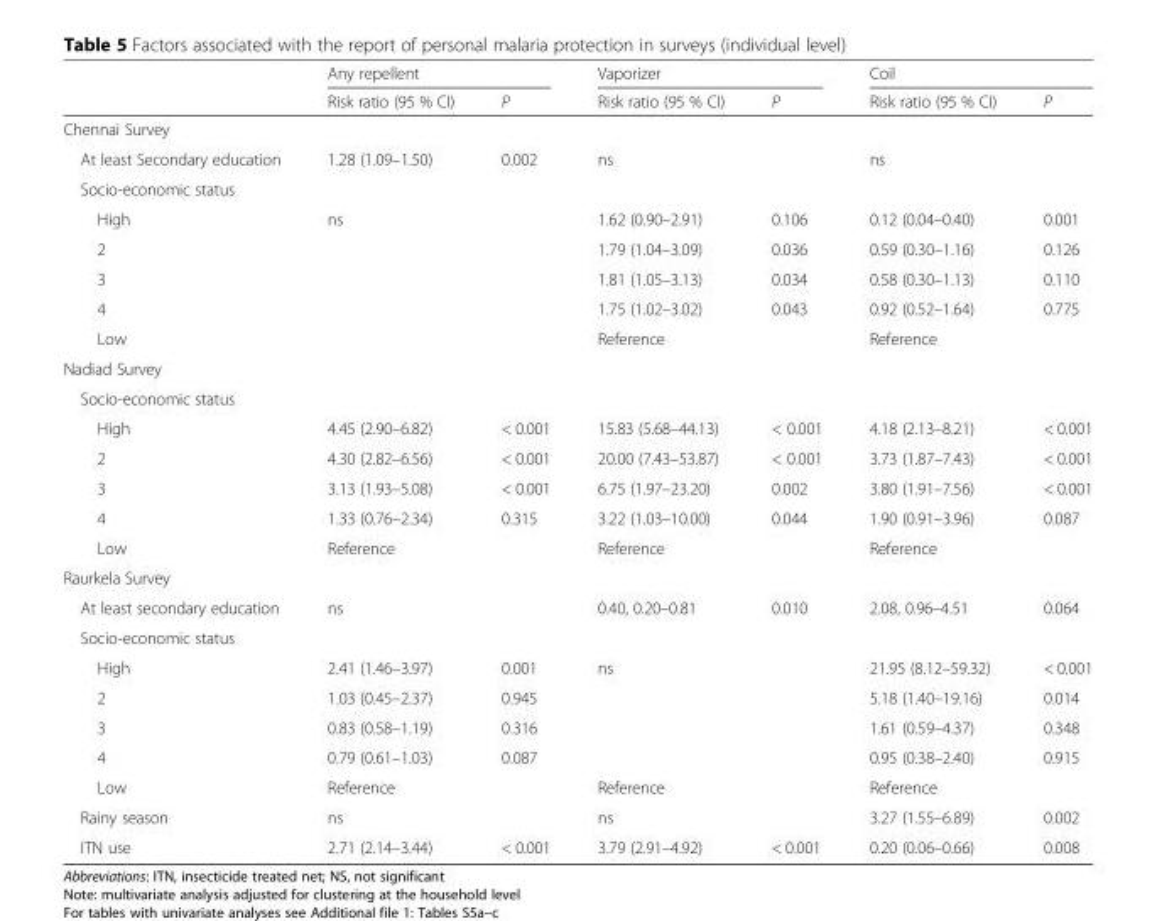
<table><thead><tr><td rowspan="2"></td><td colspan="2">Any repellent</td><td colspan="2">Vaporizer</td><td colspan="2">Coil</td></tr><tr><td>Risk ratio (95 % CI)</td><td>P</td><td>Risk ratio (95 % CI)</td><td>P</td><td>Risk ratio (95 % CI)</td><td>P</td></tr></thead><tbody><tr><td colspan="7">Chennai Survey</td></tr><tr><td>At least Secondary education</td><td>1.28 (1.09–1.50)</td><td>0.002</td><td>ns</td><td></td><td>ns</td><td></td></tr><tr><td colspan="7">Socio-economic status</td></tr><tr><td>High</td><td>ns</td><td></td><td>1.62 (0.90–2.91)</td><td>0.106</td><td>0.12 (0.04–0.40)</td><td>0.001</td></tr><tr><td>2</td><td></td><td></td><td>1.79 (1.04–3.09)</td><td>0.036</td><td>0.59 (0.30–1.16)</td><td>0.126</td></tr><tr><td>3</td><td></td><td></td><td>1.81 (1.05–3.13)</td><td>0.034</td><td>0.58 (0.30–1.13)</td><td>0.110</td></tr><tr><td>4</td><td></td><td></td><td>1.75 (1.02–3.02)</td><td>0.043</td><td>0.92 (0.52–1.64)</td><td>0.775</td></tr><tr><td>Low</td><td></td><td></td><td>Reference</td><td></td><td>Reference</td><td></td></tr><tr><td colspan="7">Nadiad Survey</td></tr><tr><td colspan="7">Socio-economic status</td></tr><tr><td>High</td><td>4.45 (2.90–6.82)</td><td>&lt; 0.001</td><td>15.83 (5.68–44.13)</td><td>&lt; 0.001</td><td>4.18 (2.13–8.21)</td><td>&lt; 0.001</td></tr><tr><td>2</td><td>4.30 (2.82–6.56)</td><td>&lt; 0.001</td><td>20.00 (7.43–53.87)</td><td>&lt; 0.001</td><td>3.73 (1.87–7.43)</td><td>&lt; 0.001</td></tr><tr><td>3</td><td>3.13 (1.93–5.08)</td><td>&lt; 0.001</td><td>6.75 (1.97–23.20)</td><td>0.002</td><td>3.80 (1.91–7.56)</td><td>&lt; 0.001</td></tr><tr><td>4</td><td>1.33 (0.76–2.34)</td><td>0.315</td><td>3.22 (1.03–10.00)</td><td>0.044</td><td>1.90 (0.91–3.96)</td><td>0.087</td></tr><tr><td>Low</td><td>Reference</td><td></td><td>Reference</td><td></td><td>Reference</td><td></td></tr><tr><td colspan="7">Raurkela Survey</td></tr><tr><td>At least secondary education</td><td>ns</td><td></td><td>0.40, 0.20–0.81</td><td>0.010</td><td>2.08, 0.96–4.51</td><td>0.064</td></tr><tr><td colspan="7">Socio-economic status</td></tr><tr><td>High</td><td>2.41 (1.46–3.97)</td><td>0.001</td><td>ns</td><td></td><td>21.95 (8.12–59.32)</td><td>&lt; 0.001</td></tr><tr><td>2</td><td>1.03 (0.45–2.37)</td><td>0.945</td><td></td><td></td><td>5.18 (1.40–19.16)</td><td>0.014</td></tr><tr><td>3</td><td>0.83 (0.58–1.19)</td><td>0.316</td><td></td><td></td><td>1.61 (0.59–4.37)</td><td>0.348</td></tr><tr><td>4</td><td>0.79 (0.61–1.03)</td><td>0.087</td><td></td><td></td><td>0.95 (0.38–2.40)</td><td>0.915</td></tr><tr><td>Low</td><td>Reference</td><td></td><td>Reference</td><td></td><td>Reference</td><td></td></tr><tr><td>Rainy season</td><td>ns</td><td></td><td>ns</td><td></td><td>3.27 (1.55–6.89)</td><td>0.002</td></tr><tr><td>ITN use</td><td>2.71 (2.14–3.44)</td><td>&lt; 0.001</td><td>3.79 (2.91–4.92)</td><td>&lt; 0.001</td><td>0.20 (0.06–0.66)</td><td>0.008</td></tr></tbody></table>